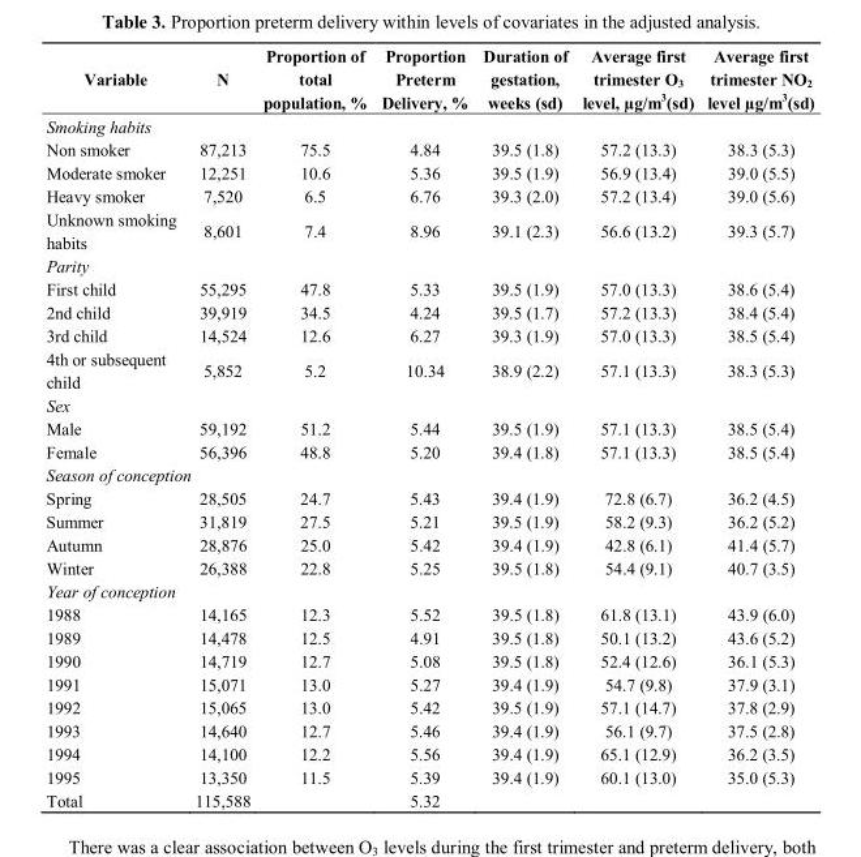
<table><thead><tr><td>Variable</td><td>N</td><td>Proportion of total population, %</td><td>Proportion Preterm Delivery, %</td><td>Duration of gestation, weeks (sd)</td><td>Average first trimester O<sub>3</sub> level, µg/m<sup>3</sup>(sd)</td><td>Average first trimester NO<sub>2</sub> level µg/m<sup>3</sup>(sd)</td></tr></thead><tbody><tr><td colspan="7">Smoking habits</td></tr><tr><td>Non smoker</td><td>87,213</td><td>75.5</td><td>4.84</td><td>39.5 (1.8)</td><td>57.2 (13.3)</td><td>38.3 (5.3)</td></tr><tr><td>Moderate smoker</td><td>12,251</td><td>10.6</td><td>5.36</td><td>39.5 (1.9)</td><td>56.9 (13.4)</td><td>39.0 (5.5)</td></tr><tr><td>Heavy smoker</td><td>7,520</td><td>6.5</td><td>6.76</td><td>39.3 (2.0)</td><td>57.2 (13.4)</td><td>39.0 (5.6)</td></tr><tr><td>Unknown smoking habits</td><td>8,601</td><td>7.4</td><td>8.96</td><td>39.1 (2.3)</td><td>56.6 (13.2)</td><td>39.3 (5.7)</td></tr><tr><td colspan="7">Parity</td></tr><tr><td>First child</td><td>55,295</td><td>47.8</td><td>5.33</td><td>39.5 (1.9)</td><td>57.0 (13.3)</td><td>38.6 (5.4)</td></tr><tr><td>2nd child</td><td>39,919</td><td>34.5</td><td>4.24</td><td>39.5 (1.7)</td><td>57.2 (13.3)</td><td>38.4 (5.4)</td></tr><tr><td>3rd child</td><td>14,524</td><td>12.6</td><td>6.27</td><td>39.3 (1.9)</td><td>57.0 (13.3)</td><td>38.5 (5.4)</td></tr><tr><td>4th or subsequent child</td><td>5,852</td><td>5.2</td><td>10.34</td><td>38.9 (2.2)</td><td>57.1 (13.3)</td><td>38.3 (5.3)</td></tr><tr><td colspan="7">Sex</td></tr><tr><td>Male</td><td>59,192</td><td>51.2</td><td>5.44</td><td>39.5 (1.9)</td><td>57.1 (13.3)</td><td>38.5 (5.4)</td></tr><tr><td>Female</td><td>56,396</td><td>48.8</td><td>5.20</td><td>39.4 (1.8)</td><td>57.1 (13.3)</td><td>38.5 (5.4)</td></tr><tr><td colspan="7">Season of conception</td></tr><tr><td>Spring</td><td>28,505</td><td>24.7</td><td>5.43</td><td>39.4 (1.9)</td><td>72.8 (6.7)</td><td>36.2 (4.5)</td></tr><tr><td>Summer</td><td>31,819</td><td>27.5</td><td>5.21</td><td>39.5 (1.9)</td><td>58.2 (9.3)</td><td>36.2 (5.2)</td></tr><tr><td>Autumn</td><td>28,876</td><td>25.0</td><td>5.42</td><td>39.4 (1.9)</td><td>42.8 (6.1)</td><td>41.4 (5.7)</td></tr><tr><td>Winter</td><td>26,388</td><td>22.8</td><td>5.25</td><td>39.5 (1.8)</td><td>54.4 (9.1)</td><td>40.7 (3.5)</td></tr><tr><td colspan="7">Year of conception</td></tr><tr><td>1988</td><td>14,165</td><td>12.3</td><td>5.52</td><td>39.5 (1.8)</td><td>61.8 (13.1)</td><td>43.9 (6.0)</td></tr><tr><td>1989</td><td>14,478</td><td>12.5</td><td>4.91</td><td>39.5 (1.8)</td><td>50.1 (13.2)</td><td>43.6 (5.2)</td></tr><tr><td>1990</td><td>14,719</td><td>12.7</td><td>5.08</td><td>39.5 (1.8)</td><td>52.4 (12.6)</td><td>36.1 (5.3)</td></tr><tr><td>1991</td><td>15,071</td><td>13.0</td><td>5.27</td><td>39.4 (1.9)</td><td>54.7 (9.8)</td><td>37.9 (3.1)</td></tr><tr><td>1992</td><td>15,065</td><td>13.0</td><td>5.42</td><td>39.5 (1.9)</td><td>57.1 (14.7)</td><td>37.8 (2.9)</td></tr><tr><td>1993</td><td>14,640</td><td>12.7</td><td>5.46</td><td>39.4 (1.9)</td><td>56.1 (9.7)</td><td>37.5 (2.8)</td></tr><tr><td>1994</td><td>14,100</td><td>12.2</td><td>5.56</td><td>39.4 (1.9)</td><td>65.1 (12.9)</td><td>36.2 (3.5)</td></tr><tr><td>1995</td><td>13,350</td><td>11.5</td><td>5.39</td><td>39.4 (1.9)</td><td>60.1 (13.0)</td><td>35.0 (5.3)</td></tr><tr><td>Total</td><td>115,588</td><td></td><td>5.32</td><td></td><td></td><td></td></tr></tbody></table>